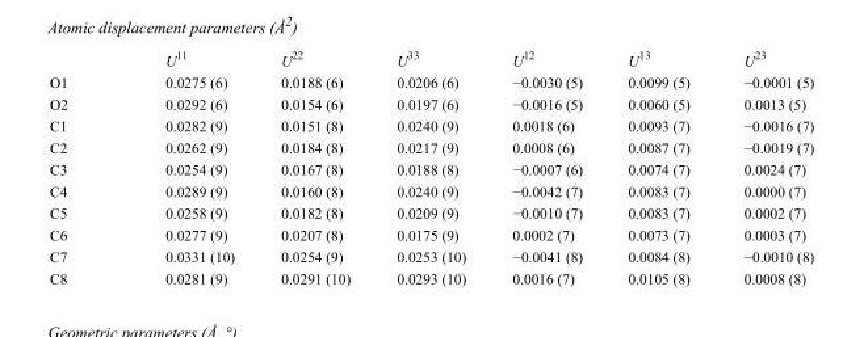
<table><thead><tr><td></td><td>U<sup>11</sup></td><td>U<sup>22</sup></td><td>U<sup>33</sup></td><td>U<sup>12</sup></td><td>U<sup>13</sup></td><td>U<sup>23</sup></td></tr></thead><tbody><tr><td>O1</td><td>0.0275 (6)</td><td>0.0188 (6)</td><td>0.0206 (6)</td><td>−0.0030 (5)</td><td>0.0099 (5)</td><td>−0.0001 (5)</td></tr><tr><td>O2</td><td>0.0292 (6)</td><td>0.0154 (6)</td><td>0.0197 (6)</td><td>−0.0016 (5)</td><td>0.0060 (5)</td><td>0.0013 (5)</td></tr><tr><td>C1</td><td>0.0282 (9)</td><td>0.0151 (8)</td><td>0.0240 (9)</td><td>0.0018 (6)</td><td>0.0093 (7)</td><td>−0.0016 (7)</td></tr><tr><td>C2</td><td>0.0262 (9)</td><td>0.0184 (8)</td><td>0.0217 (9)</td><td>0.0008 (6)</td><td>0.0087 (7)</td><td>−0.0019 (7)</td></tr><tr><td>C3</td><td>0.0254 (9)</td><td>0.0167 (8)</td><td>0.0188 (8)</td><td>−0.0007 (6)</td><td>0.0074 (7)</td><td>0.0024 (7)</td></tr><tr><td>C4</td><td>0.0289 (9)</td><td>0.0160 (8)</td><td>0.0240 (9)</td><td>−0.0042 (7)</td><td>0.0083 (7)</td><td>0.0000 (7)</td></tr><tr><td>C5</td><td>0.0258 (9)</td><td>0.0182 (8)</td><td>0.0209 (9)</td><td>−0.0010 (7)</td><td>0.0083 (7)</td><td>0.0002 (7)</td></tr><tr><td>C6</td><td>0.0277 (9)</td><td>0.0207 (8)</td><td>0.0175 (9)</td><td>0.0002 (7)</td><td>0.0073 (7)</td><td>0.0003 (7)</td></tr><tr><td>C7</td><td>0.0331 (10)</td><td>0.0254 (9)</td><td>0.0253 (10)</td><td>−0.0041 (8)</td><td>0.0084 (8)</td><td>−0.0010 (8)</td></tr><tr><td>C8</td><td>0.0281 (9)</td><td>0.0291 (10)</td><td>0.0293 (10)</td><td>0.0016 (7)</td><td>0.0105 (8)</td><td>0.0008 (8)</td></tr></tbody></table>